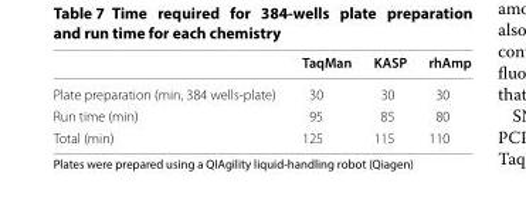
<table><thead><tr><td></td><td>TaqMan</td><td>KASP</td><td>rhAmp</td></tr></thead><tbody><tr><td>Plate preparation (min, 384 wells-plate)</td><td>30</td><td>30</td><td>30</td></tr><tr><td>Run time (min)</td><td>95</td><td>85</td><td>80</td></tr><tr><td>Total (min)</td><td>125</td><td>115</td><td>110</td></tr></tbody></table>